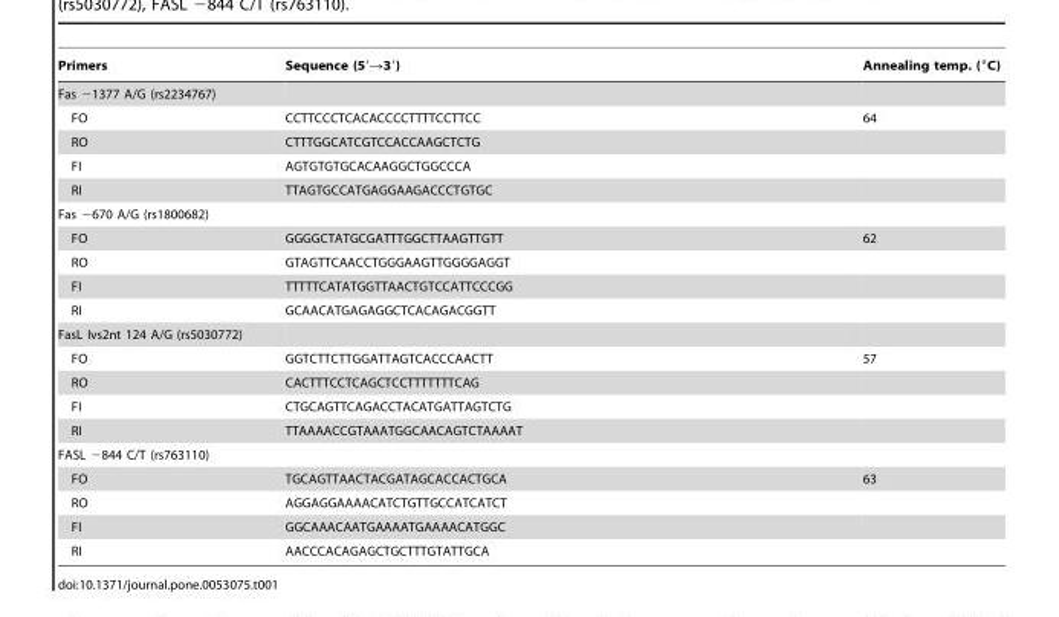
<table><thead><tr><td>Primers</td><td>Sequence (5′→3′)</td><td>Annealing temp. (°C)</td></tr></thead><tbody><tr><td colspan="3">Fas −1377 A/G (rs2234767)</td></tr><tr><td>FO</td><td>CCTTCCCTCACACCCCTTTTCCTTCC</td><td>64</td></tr><tr><td>RO</td><td>CTTTGGCATCGTCCACCAAGCTCTG</td><td></td></tr><tr><td>FI</td><td>AGTGTGTGCACAAGGCTGGCCCA</td><td></td></tr><tr><td>RI</td><td>TTAGTGCCATGAGGAAGACCCTGTGC</td><td></td></tr><tr><td colspan="3">Fas −670 A/G (rs1800682)</td></tr><tr><td>FO</td><td>GGGGCTATGCGATTTGGCTTAAGTTGTT</td><td>62</td></tr><tr><td>RO</td><td>GTAGTTCAACCTGGGAAGTTGGGGAGGT</td><td></td></tr><tr><td>FI</td><td>TTTTTCATATGGTTAACTGTCCATTCCCGG</td><td></td></tr><tr><td>RI</td><td>GCAACATGAGAGGCTCACAGACGGTT</td><td></td></tr><tr><td colspan="3">FasL Ivs2nt 124 A/G (rs5030772)</td></tr><tr><td>FO</td><td>GGTCTTCTTGGATTAGTCACCCAACTT</td><td>57</td></tr><tr><td>RO</td><td>CACTTTCCTCAGCTCCTTTTTTTCAG</td><td></td></tr><tr><td>FI</td><td>CTGCAGTTCAGACCTACATGATTAGTCTG</td><td></td></tr><tr><td>RI</td><td>TTAAAACCGTAAATGGCAACAGTCTAAAAT</td><td></td></tr><tr><td colspan="3">FASL −844 C/T (rs763110)</td></tr><tr><td>FO</td><td>TGCAGTTAACTACGATAGCACCACTGCA</td><td>63</td></tr><tr><td>RO</td><td>AGGAGGAAAACATCTGTTGCCATCATCT</td><td></td></tr><tr><td>FI</td><td>GGCAAACAATGAAAATGAAAACATGGC</td><td></td></tr><tr><td>RI</td><td>AACCCACAGAGCTGCTTTGTATTGCA</td><td></td></tr></tbody></table>